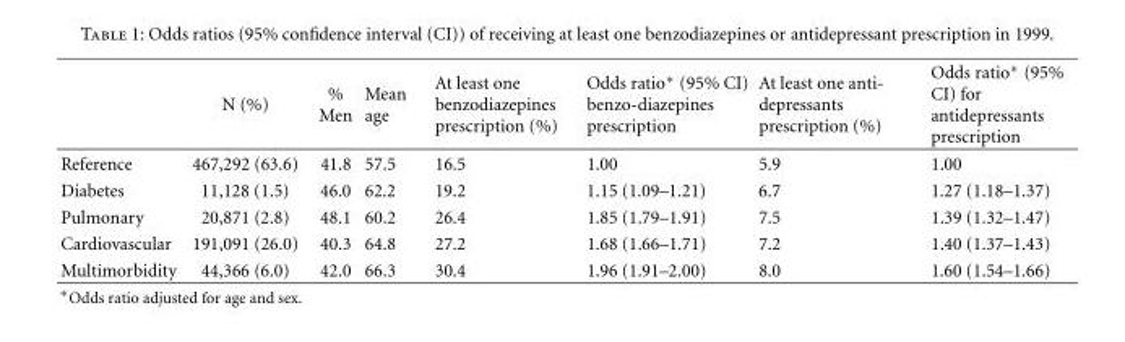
<table><thead><tr><td></td><td>N (%)</td><td>% Men</td><td>Mean age</td><td>At least one benzodiazepines prescription (%)</td><td>Odds ratio∗ (95% CI) benzo-diazepines prescription</td><td>At least one anti- depressants prescription (%)</td><td>Odds ratio∗ (95% CI) for antidepressants prescription</td></tr></thead><tbody><tr><td>Reference</td><td>467,292 (63.6)</td><td>41.8</td><td>57.5</td><td>16.5</td><td>1.00</td><td>5.9</td><td>1.00</td></tr><tr><td>Diabetes</td><td>11,128 (1.5)</td><td>46.0</td><td>62.2</td><td>19.2</td><td>1.15 (1.09–1.21)</td><td>6.7</td><td>1.27 (1.18–1.37)</td></tr><tr><td>Pulmonary</td><td>20,871 (2.8)</td><td>48.1</td><td>60.2</td><td>26.4</td><td>1.85 (1.79–1.91)</td><td>7.5</td><td>1.39 (1.32–1.47)</td></tr><tr><td>Cardiovascular</td><td>191,091 (26.0)</td><td>40.3</td><td>64.8</td><td>27.2</td><td>1.68 (1.66–1.71)</td><td>7.2</td><td>1.40 (1.37–1.43)</td></tr><tr><td>Multimorbidity</td><td>44,366 (6.0)</td><td>42.0</td><td>66.3</td><td>30.4</td><td>1.96 (1.91–2.00)</td><td>8.0</td><td>1.60 (1.54–1.66)</td></tr></tbody></table>